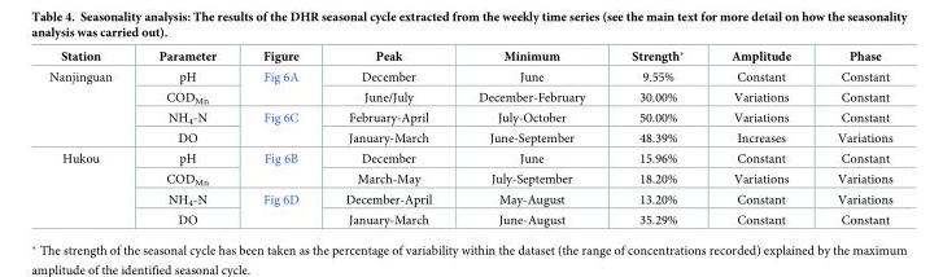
<table><thead><tr><td>Station</td><td>Parameter</td><td>Figure</td><td>Peak</td><td>Minimum</td><td>Strength*</td><td>Amplitude</td><td>Phase</td></tr></thead><tbody><tr><td rowspan="4">Nanjinguan</td><td>pH</td><td rowspan="2">Fig 6A</td><td>December</td><td>June</td><td>9.55%</td><td>Constant</td><td>Constant</td></tr><tr><td>COD<sub>Mn</sub></td><td>June/July</td><td>December-February</td><td>30.00%</td><td>Variations</td><td>Constant</td></tr><tr><td>NH<sub>4</sub>-N</td><td rowspan="2">Fig 6C</td><td>February-April</td><td>July-October</td><td>50.00%</td><td>Variations</td><td>Constant</td></tr><tr><td>DO</td><td>January-March</td><td>June-September</td><td>48.39%</td><td>Increases</td><td>Variations</td></tr><tr><td rowspan="4">Hukou</td><td>pH</td><td rowspan="2">Fig 6B</td><td>December</td><td>June</td><td>15.96%</td><td>Constant</td><td>Constant</td></tr><tr><td>COD<sub>Mn</sub></td><td>March-May</td><td>July-September</td><td>18.20%</td><td>Variations</td><td>Variations</td></tr><tr><td>NH<sub>4</sub>-N</td><td rowspan="2">Fig 6D</td><td>December-April</td><td>May-August</td><td>13.20%</td><td>Constant</td><td>Variations</td></tr><tr><td>DO</td><td>January-March</td><td>June-August</td><td>35.29%</td><td>Constant</td><td>Constant</td></tr></tbody></table>